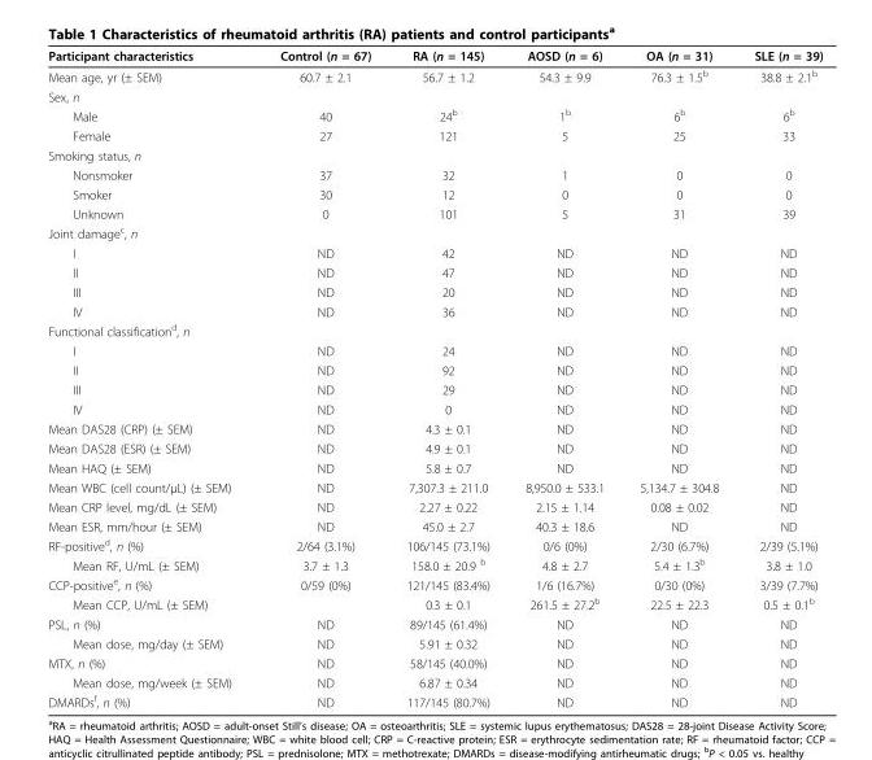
<table><thead><tr><td>Participant characteristics</td><td>Control (n = 67)</td><td>RA (n = 145)</td><td>AOSD (n = 6)</td><td>OA (n = 31)</td><td>SLE (n = 39)</td></tr></thead><tbody><tr><td>Mean age, yr (± SEM)</td><td>60.7 ± 2.1</td><td>56.7 ± 1.2</td><td>54.3 ± 9.9</td><td>76.3 ± 1.5<sup>b</sup></td><td>38.8 ± 2.1<sup>b</sup></td></tr><tr><td colspan="6">Sex, n</td></tr><tr><td>Male</td><td>40</td><td>24<sup>b</sup></td><td>1<sup>b</sup></td><td>6<sup>b</sup></td><td>6<sup>b</sup></td></tr><tr><td>Female</td><td>27</td><td>121</td><td>5</td><td>25</td><td>33</td></tr><tr><td colspan="6">Smoking status, n</td></tr><tr><td>Nonsmoker</td><td>37</td><td>32</td><td>1</td><td>0</td><td>0</td></tr><tr><td>Smoker</td><td>30</td><td>12</td><td>0</td><td>0</td><td>0</td></tr><tr><td>Unknown</td><td>0</td><td>101</td><td>5</td><td>31</td><td>39</td></tr><tr><td colspan="6">Joint damage<sup>c</sup>, n</td></tr><tr><td>I</td><td>ND</td><td>42</td><td>ND</td><td>ND</td><td>ND</td></tr><tr><td>II</td><td>ND</td><td>47</td><td>ND</td><td>ND</td><td>ND</td></tr><tr><td>III</td><td>ND</td><td>20</td><td>ND</td><td>ND</td><td>ND</td></tr><tr><td>IV</td><td>ND</td><td>36</td><td>ND</td><td>ND</td><td>ND</td></tr><tr><td colspan="6">Functional classification<sup>d</sup>, n</td></tr><tr><td>I</td><td>ND</td><td>24</td><td>ND</td><td>ND</td><td>ND</td></tr><tr><td>II</td><td>ND</td><td>92</td><td>ND</td><td>ND</td><td>ND</td></tr><tr><td>III</td><td>ND</td><td>29</td><td>ND</td><td>ND</td><td>ND</td></tr><tr><td>IV</td><td>ND</td><td>0</td><td>ND</td><td>ND</td><td>ND</td></tr><tr><td>Mean DAS28 (CRP) (± SEM)</td><td>ND</td><td>4.3 ± 0.1</td><td>ND</td><td>ND</td><td>ND</td></tr><tr><td>Mean DAS28 (ESR) (± SEM)</td><td>ND</td><td>4.9 ± 0.1</td><td>ND</td><td>ND</td><td>ND</td></tr><tr><td>Mean HAQ (± SEM)</td><td>ND</td><td>5.8 ± 0.7</td><td>ND</td><td>ND</td><td>ND</td></tr><tr><td>Mean WBC (cell count/μL) (± SEM)</td><td>ND</td><td>7,307.3 ± 211.0</td><td>8,950.0 ± 533.1</td><td>5,134.7 ± 304.8</td><td>ND</td></tr><tr><td>Mean CRP level, mg/dL (± SEM)</td><td>ND</td><td>2.27 ± 0.22</td><td>2.15 ± 1.14</td><td>0.08 ± 0.02</td><td>ND</td></tr><tr><td>Mean ESR, mm/hour (± SEM)</td><td>ND</td><td>45.0 ± 2.7</td><td>40.3 ± 18.6</td><td>ND</td><td>ND</td></tr><tr><td>RF-positive<sup>d</sup>, n (%)</td><td>2/64 (3.1%)</td><td>106/145 (73.1%)</td><td>0/6 (0%)</td><td>2/30 (6.7%)</td><td>2/39 (5.1%)</td></tr><tr><td>Mean RF, U/mL (± SEM)</td><td>3.7 ± 1.3</td><td>158.0 ± 20.9 <sup>b</sup></td><td>4.8 ± 2.7</td><td>5.4 ± 1.3<sup>b</sup></td><td>3.8 ± 1.0</td></tr><tr><td>CCP-positive<sup>e</sup>, n (%)</td><td>0/59 (0%)</td><td>121/145 (83.4%)</td><td>1/6 (16.7%)</td><td>0/30 (0%)</td><td>3/39 (7.7%)</td></tr><tr><td>Mean CCP, U/mL (± SEM)</td><td></td><td>0.3 ± 0.1</td><td>261.5 ± 27.2<sup>b</sup></td><td>22.5 ± 22.3</td><td>0.5 ± 0.1<sup>b</sup></td></tr><tr><td>PSL, n (%)</td><td>ND</td><td>89/145 (61.4%)</td><td>ND</td><td>ND</td><td>ND</td></tr><tr><td>Mean dose, mg/day (± SEM)</td><td>ND</td><td>5.91 ± 0.32</td><td>ND</td><td>ND</td><td>ND</td></tr><tr><td>MTX, n (%)</td><td>ND</td><td>58/145 (40.0%)</td><td>ND</td><td>ND</td><td>ND</td></tr><tr><td>Mean dose, mg/week (± SEM)</td><td>ND</td><td>6.87 ± 0.34</td><td>ND</td><td>ND</td><td>ND</td></tr><tr><td>DMARDs<sup>f</sup>, n (%)</td><td>ND</td><td>117/145 (80.7%)</td><td>ND</td><td>ND</td><td>ND</td></tr></tbody></table>